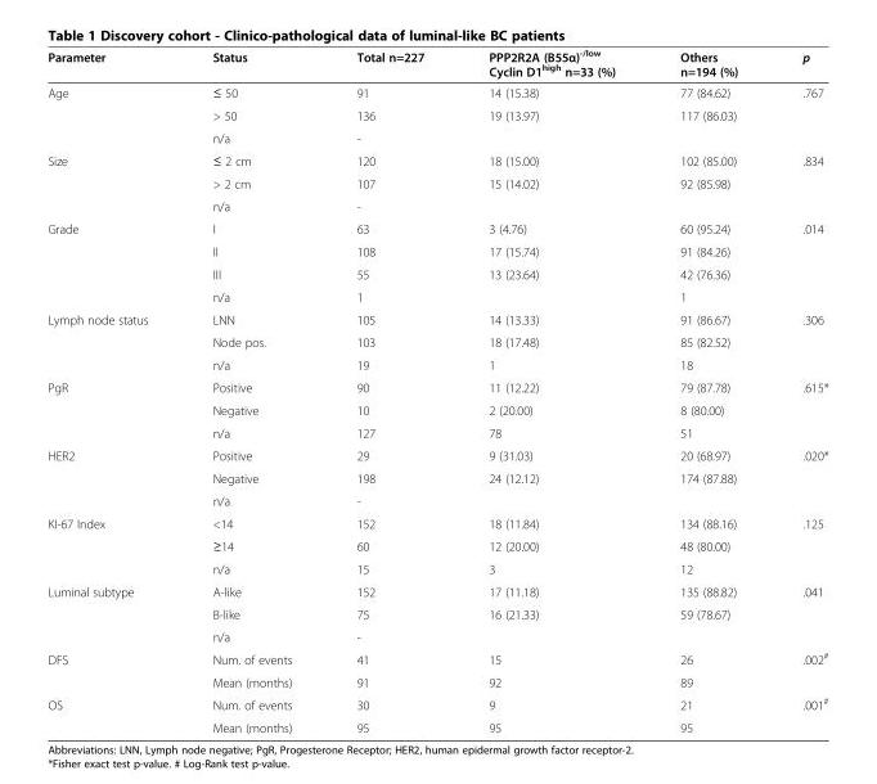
<table><thead><tr><td>Parameter</td><td>Status</td><td>Total n=227</td><td>PPP2R2A (B55α)<sup>-/low</sup> Cyclin D1<sup>high</sup> n=33 (%)</td><td>Others n=194 (%)</td><td>p</td></tr></thead><tbody><tr><td rowspan="3">Age</td><td>≤ 50</td><td>91</td><td>14 (15.38)</td><td>77 (84.62)</td><td>.767</td></tr><tr><td>&gt; 50</td><td>136</td><td>19 (13.97)</td><td>117 (86.03)</td><td></td></tr><tr><td>n/a</td><td>-</td><td></td><td></td><td></td></tr><tr><td rowspan="3">Size</td><td>≤ 2 cm</td><td>120</td><td>18 (15.00)</td><td>102 (85.00)</td><td>.834</td></tr><tr><td>&gt; 2 cm</td><td>107</td><td>15 (14.02)</td><td>92 (85.98)</td><td></td></tr><tr><td>n/a</td><td>-</td><td></td><td></td><td></td></tr><tr><td rowspan="4">Grade</td><td>I</td><td>63</td><td>3 (4.76)</td><td>60 (95.24)</td><td>.014</td></tr><tr><td>II</td><td>108</td><td>17 (15.74)</td><td>91 (84.26)</td><td></td></tr><tr><td>III</td><td>55</td><td>13 (23.64)</td><td>42 (76.36)</td><td></td></tr><tr><td>n/a</td><td>1</td><td></td><td>1</td><td></td></tr><tr><td rowspan="3">Lymph node status</td><td>LNN</td><td>105</td><td>14 (13.33)</td><td>91 (86.67)</td><td>.306</td></tr><tr><td>Node pos.</td><td>103</td><td>18 (17.48)</td><td>85 (82.52)</td><td></td></tr><tr><td>n/a</td><td>19</td><td>1</td><td>18</td><td></td></tr><tr><td rowspan="3">PgR</td><td>Positive</td><td>90</td><td>11 (12.22)</td><td>79 (87.78)</td><td>.615*</td></tr><tr><td>Negative</td><td>10</td><td>2 (20.00)</td><td>8 (80.00)</td><td></td></tr><tr><td>n/a</td><td>127</td><td>78</td><td>51</td><td></td></tr><tr><td rowspan="3">HER2</td><td>Positive</td><td>29</td><td>9 (31.03)</td><td>20 (68.97)</td><td>.020*</td></tr><tr><td>Negative</td><td>198</td><td>24 (12.12)</td><td>174 (87.88)</td><td></td></tr><tr><td>n/a</td><td>-</td><td></td><td></td><td></td></tr><tr><td rowspan="3">KI-67 Index</td><td>&lt;14</td><td>152</td><td>18 (11.84)</td><td>134 (88.16)</td><td>.125</td></tr><tr><td>≥14</td><td>60</td><td>12 (20.00)</td><td>48 (80.00)</td><td></td></tr><tr><td>n/a</td><td>15</td><td>3</td><td>12</td><td></td></tr><tr><td rowspan="3">Luminal subtype</td><td>A-like</td><td>152</td><td>17 (11.18)</td><td>135 (88.82)</td><td>.041</td></tr><tr><td>B-like</td><td>75</td><td>16 (21.33)</td><td>59 (78.67)</td><td></td></tr><tr><td>n/a</td><td>-</td><td></td><td></td><td></td></tr><tr><td rowspan="2">DFS</td><td>Num. of events</td><td>41</td><td>15</td><td>26</td><td>.002<sup>#</sup></td></tr><tr><td>Mean (months)</td><td>91</td><td>92</td><td>89</td><td></td></tr><tr><td rowspan="2">OS</td><td>Num. of events</td><td>30</td><td>9</td><td>21</td><td>.001<sup>#</sup></td></tr><tr><td>Mean (months)</td><td>95</td><td>95</td><td>95</td><td></td></tr></tbody></table>